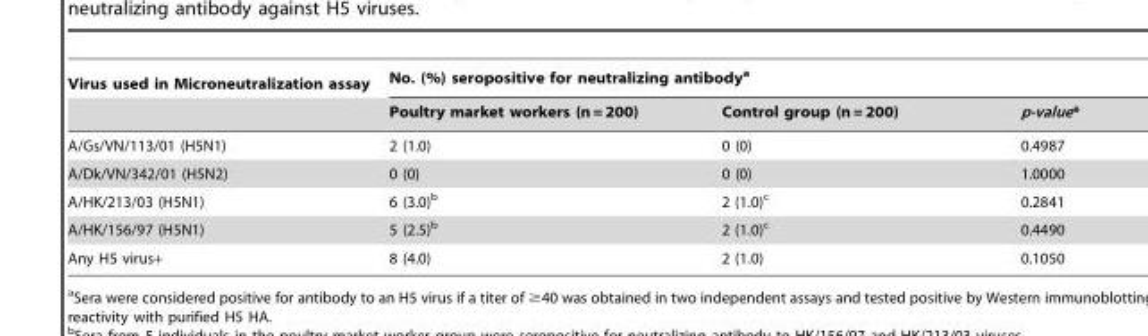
<table><thead><tr><td rowspan="2">Virus used in Microneutralization assay</td><td colspan="3">No. (%) seropositive for neutralizing antibody<sup>a</sup></td></tr><tr><td>Poultry market workers (n = 200)</td><td>Control group (n = 200)</td><td>p-value*</td></tr></thead><tbody><tr><td>A/Gs/VN/113/01 (H5N1)</td><td>2 (1.0)</td><td>0 (0)</td><td>0.4987</td></tr><tr><td>A/Dk/VN/342/01 (H5N2)</td><td>0 (0)</td><td>0 (0)</td><td>1.0000</td></tr><tr><td>A/HK/213/03 (H5N1)</td><td>6 (3.0)<sup>b</sup></td><td>2 (1.0)<sup>c</sup></td><td>0.2841</td></tr><tr><td>A/HK/156/97 (H5N1)</td><td>5 (2.5)<sup>b</sup></td><td>2 (1.0)<sup>c</sup></td><td>0.4490</td></tr><tr><td>Any H5 virus+</td><td>8 (4.0)</td><td>2 (1.0)</td><td>0.1050</td></tr></tbody></table>